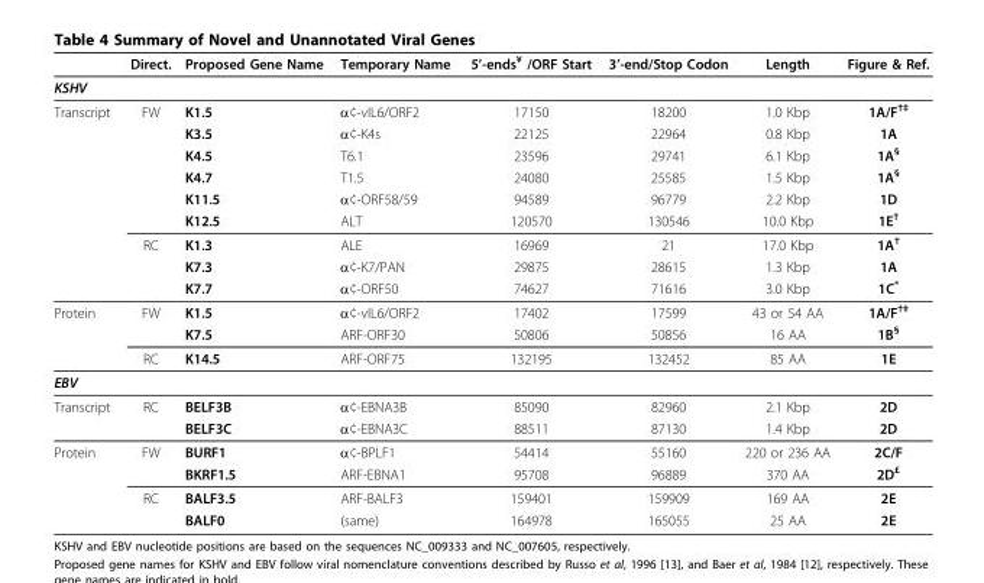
<table><thead><tr><td></td><td>Direct.</td><td>Proposed Gene Name</td><td>Temporary Name</td><td>5’-ends<sup>¥</sup> /ORF Start</td><td>3’-end/Stop Codon</td><td>Length</td><td>Figure &amp; Ref.</td></tr></thead><tbody><tr><td colspan="8">KSHV</td></tr><tr><td rowspan="9">Transcript</td><td>FW</td><td>K1.5</td><td>α¢-vIL6/ORF2</td><td>17150</td><td>18200</td><td>1.0 Kbp</td><td>1A/F<sup>†‡</sup></td></tr><tr><td></td><td>K3.5</td><td>α¢-K4s</td><td>22125</td><td>22964</td><td>0.8 Kbp</td><td>1A</td></tr><tr><td></td><td>K4.5</td><td>T6.1</td><td>23596</td><td>29741</td><td>6.1 Kbp</td><td>1A<sup>§</sup></td></tr><tr><td></td><td>K4.7</td><td>T1.5</td><td>24080</td><td>25585</td><td>1.5 Kbp</td><td>1A<sup>§</sup></td></tr><tr><td></td><td>K11.5</td><td>α¢-ORF58/59</td><td>94589</td><td>96779</td><td>2.2 Kbp</td><td>1D</td></tr><tr><td></td><td>K12.5</td><td>ALT</td><td>120570</td><td>130546</td><td>10.0 Kbp</td><td>1E<sup>†</sup></td></tr><tr><td>RC</td><td>K1.3</td><td>ALE</td><td>16969</td><td>21</td><td>17.0 Kbp</td><td>1A<sup>†</sup></td></tr><tr><td></td><td>K7.3</td><td>α¢-K7/PAN</td><td>29875</td><td>28615</td><td>1.3 Kbp</td><td>1A</td></tr><tr><td></td><td>K7.7</td><td>α¢-ORF50</td><td>74627</td><td>71616</td><td>3.0 Kbp</td><td>1C*</td></tr><tr><td rowspan="3">Protein</td><td>FW</td><td>K1.5</td><td>α¢-vIL6/ORF2</td><td>17402</td><td>17599</td><td>43 or 54 AA</td><td>1A/F<sup>†‡</sup></td></tr><tr><td></td><td>K7.5</td><td>ARF-ORF30</td><td>50806</td><td>50856</td><td>16 AA</td><td>1B<sup>§</sup></td></tr><tr><td>RC</td><td>K14.5</td><td>ARF-ORF75</td><td>132195</td><td>132452</td><td>85 AA</td><td>1E</td></tr><tr><td colspan="8">EBV</td></tr><tr><td rowspan="2">Transcript</td><td>RC</td><td>BELF3B</td><td>α¢-EBNA3B</td><td>85090</td><td>82960</td><td>2.1 Kbp</td><td>2D</td></tr><tr><td></td><td>BELF3C</td><td>α¢-EBNA3C</td><td>88511</td><td>87130</td><td>1.4 Kbp</td><td>2D</td></tr><tr><td rowspan="4">Protein</td><td>FW</td><td>BURF1</td><td>α¢-BPLF1</td><td>54414</td><td>55160</td><td>220 or 236 AA</td><td>2C/F</td></tr><tr><td></td><td>BKRF1.5</td><td>ARF-EBNA1</td><td>95708</td><td>96889</td><td>370 AA</td><td>2D<sup>£</sup></td></tr><tr><td>RC</td><td>BALF3.5</td><td>ARF-BALF3</td><td>159401</td><td>159909</td><td>169 AA</td><td>2E</td></tr><tr><td></td><td>BALF0</td><td>(same)</td><td>164978</td><td>165055</td><td>25 AA</td><td>2E</td></tr></tbody></table>